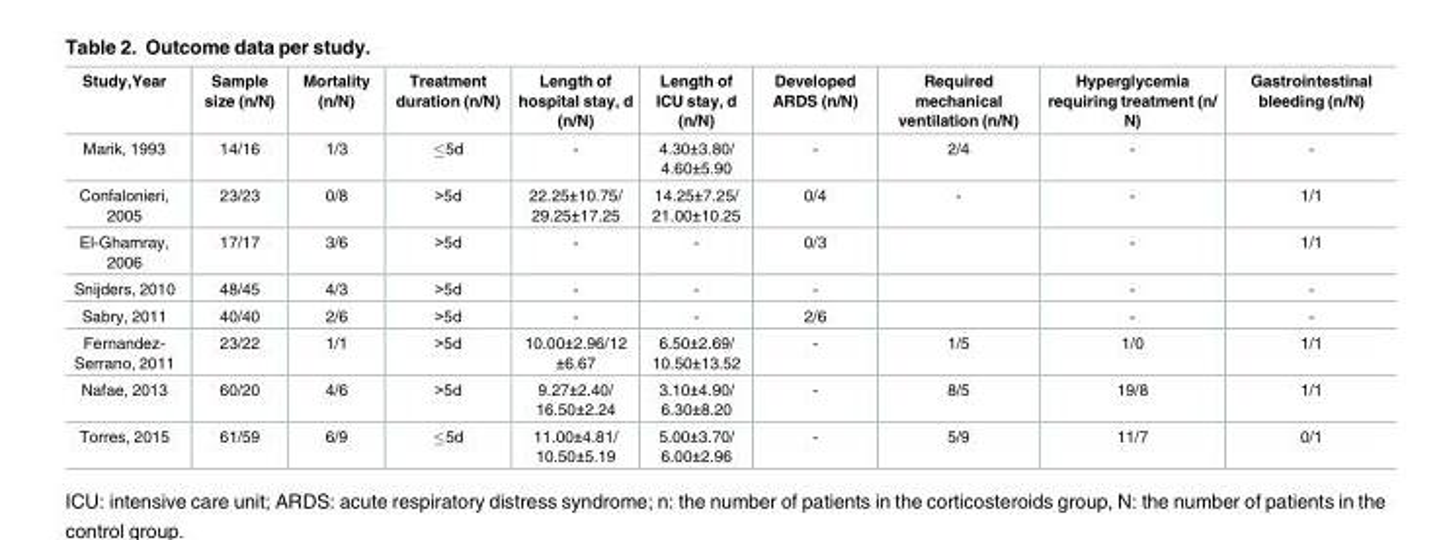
<table><thead><tr><td>Study,Year</td><td>Sample size (n/N)</td><td>Mortality (n/N)</td><td>Treatment duration (n/N)</td><td>Length of hospital stay, d (n/N)</td><td>Length of ICU stay, d (n/N)</td><td>Developed ARDS (n/N)</td><td>Required mechanical ventilation (n/N)</td><td>Hyperglycemia requiring treatment (n/ N)</td><td>Gastrointestinal bleeding (n/N)</td></tr></thead><tbody><tr><td>Marik, 1993</td><td>14/16</td><td>1/3</td><td>≤5d</td><td>-</td><td>4.30±3.80/ 4.60±5.90</td><td>-</td><td>2/4</td><td>-</td><td>-</td></tr><tr><td>Confalonieri, 2005</td><td>23/23</td><td>0/8</td><td>&gt;5d</td><td>22.25±10.75/ 29.25±17.25</td><td>14.25±7.25/ 21.00±10.25</td><td>0/4</td><td>-</td><td>-</td><td>1/1</td></tr><tr><td>El-Ghamray, 2006</td><td>17/17</td><td>3/6</td><td>&gt;5d</td><td>-</td><td>-</td><td>0/3</td><td></td><td>-</td><td>1/1</td></tr><tr><td>Snijders, 2010</td><td>48/45</td><td>4/3</td><td>&gt;5d</td><td>-</td><td>-</td><td>-</td><td></td><td>-</td><td>-</td></tr><tr><td>Sabry, 2011</td><td>40/40</td><td>2/6</td><td>&gt;5d</td><td>-</td><td>-</td><td>2/6</td><td></td><td>-</td><td>-</td></tr><tr><td>Fernandez- Serrano, 2011</td><td>23/22</td><td>1/1</td><td>&gt;5d</td><td>10.00±2.96/12 ±6.67</td><td>6.50±2.69/ 10.50±13.52</td><td>-</td><td>1/5</td><td>1/0</td><td>1/1</td></tr><tr><td>Nafae, 2013</td><td>60/20</td><td>4/6</td><td>&gt;5d</td><td>9.27±2.40/ 16.50±2.24</td><td>3.10±4.90/ 6.30±8.20</td><td>-</td><td>8/5</td><td>19/8</td><td>1/1</td></tr><tr><td>Torres, 2015</td><td>61/59</td><td>6/9</td><td>≤5d</td><td>11.00±4.81/ 10.50±5.19</td><td>5.00±3.70/ 6.00±2.96</td><td>-</td><td>5/9</td><td>11/7</td><td>0/1</td></tr></tbody></table>